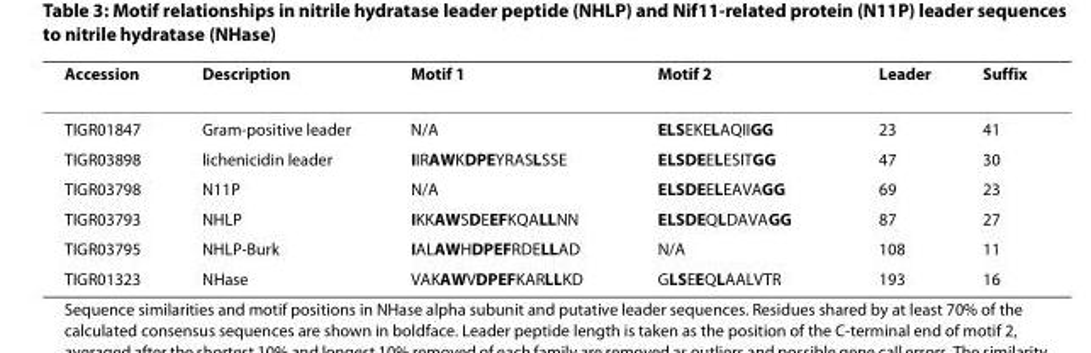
<table><thead><tr><td>Accession</td><td>Description</td><td>Motif 1</td><td>Motif 2</td><td>Leader</td><td>Suffix</td></tr></thead><tbody><tr><td>TIGR01847</td><td>Gram-positive leader</td><td>N/A</td><td>ELSEKELAQIIGG</td><td>23</td><td>41</td></tr><tr><td>TIGR03898</td><td>lichenicidin leader</td><td>IIRAWKDPEYRASLSSE</td><td>ELSDEELESITGG</td><td>47</td><td>30</td></tr><tr><td>TIGR03798</td><td>N11P</td><td>N/A</td><td>ELSDEELEAVAGG</td><td>69</td><td>23</td></tr><tr><td>TIGR03793</td><td>NHLP</td><td>IKKAWSDEEFKQALLNN</td><td>ELSDEQLDAVAGG</td><td>87</td><td>27</td></tr><tr><td>TIGR03795</td><td>NHLP-Burk</td><td>IALAWHDPEFRDELLAD</td><td>N/A</td><td>108</td><td>11</td></tr><tr><td>TIGR01323</td><td>NHase</td><td>VAKAWVDPEFKARLLKD</td><td>GLSEEQLAALVTR</td><td>193</td><td>16</td></tr></tbody></table>